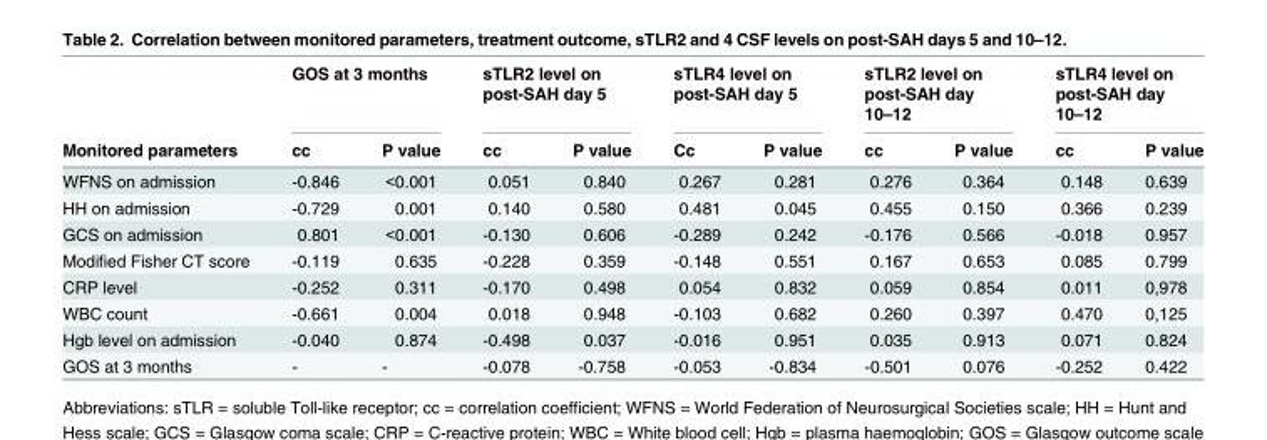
<table><thead><tr><td rowspan="2">Monitored parameters</td><td colspan="2">GOS at 3 months</td><td colspan="2">sTLR2 level on post-SAH day 5</td><td colspan="2">sTLR4 level on post-SAH day 5</td><td colspan="2">sTLR2 level on post-SAH day 10–12</td><td colspan="2">sTLR4 level on post-SAH day 10–12</td></tr><tr><td>cc</td><td>P value</td><td>cc</td><td>P value</td><td>Cc</td><td>P value</td><td>cc</td><td>P value</td><td>cc</td><td>P value</td></tr></thead><tbody><tr><td>WFNS on admission</td><td>-0.846</td><td>&lt;0.001</td><td>0.051</td><td>0.840</td><td>0.267</td><td>0.281</td><td>0.276</td><td>0.364</td><td>0.148</td><td>0.639</td></tr><tr><td>HH on admission</td><td>-0.729</td><td>0.001</td><td>0.140</td><td>0.580</td><td>0.481</td><td>0.045</td><td>0.455</td><td>0.150</td><td>0.366</td><td>0.239</td></tr><tr><td>GCS on admission</td><td>0.801</td><td>&lt;0.001</td><td>-0.130</td><td>0.606</td><td>-0.289</td><td>0.242</td><td>-0.176</td><td>0.566</td><td>-0.018</td><td>0.957</td></tr><tr><td>Modified Fisher CT score</td><td>-0.119</td><td>0.635</td><td>-0.228</td><td>0.359</td><td>-0.148</td><td>0.551</td><td>0.167</td><td>0.653</td><td>0.085</td><td>0.799</td></tr><tr><td>CRP level</td><td>-0.252</td><td>0.311</td><td>-0.170</td><td>0.498</td><td>0.054</td><td>0.832</td><td>0.059</td><td>0.854</td><td>0.011</td><td>0,978</td></tr><tr><td>WBC count</td><td>-0.661</td><td>0.004</td><td>0.018</td><td>0.948</td><td>-0.103</td><td>0.682</td><td>0.260</td><td>0.397</td><td>0.470</td><td>0,125</td></tr><tr><td>Hgb level on admission</td><td>-0.040</td><td>0.874</td><td>-0.498</td><td>0.037</td><td>-0.016</td><td>0.951</td><td>0.035</td><td>0.913</td><td>0.071</td><td>0.824</td></tr><tr><td>GOS at 3 months</td><td>-</td><td>-</td><td>-0.078</td><td>-0.758</td><td>-0.053</td><td>-0.834</td><td>-0.501</td><td>0.076</td><td>-0.252</td><td>0.422</td></tr></tbody></table>